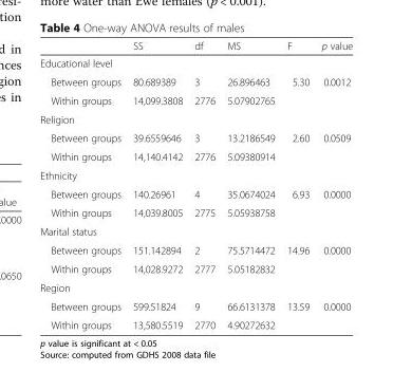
<table><thead><tr><td></td><td>SS</td><td>df</td><td>MS</td><td>F</td><td>p value</td></tr></thead><tbody><tr><td colspan="6">Educational level</td></tr><tr><td>Between groups</td><td>80.689389</td><td>3</td><td>26.896463</td><td rowspan="2">5.30</td><td rowspan="2">0.0012</td></tr><tr><td>Within groups</td><td>14,099.3808</td><td>2776</td><td>5.07902765</td></tr><tr><td colspan="6">Religion</td></tr><tr><td>Between groups</td><td>39.6559646</td><td>3</td><td>13.2186549</td><td rowspan="2">2.60</td><td rowspan="2">0.0509</td></tr><tr><td>Within groups</td><td>14,140.4142</td><td>2776</td><td>5.09380914</td></tr><tr><td colspan="6">Ethnicity</td></tr><tr><td>Between groups</td><td>140.26961</td><td>4</td><td>35.0674024</td><td rowspan="2">6.93</td><td rowspan="2">0.0000</td></tr><tr><td>Within groups</td><td>14,039.8005</td><td>2775</td><td>5.05938758</td></tr><tr><td colspan="6">Marital status</td></tr><tr><td>Between groups</td><td>151.142894</td><td>2</td><td>75.5714472</td><td rowspan="2">14.96</td><td rowspan="2">0.0000</td></tr><tr><td>Within groups</td><td>14,028.9272</td><td>2777</td><td>5.05182832</td></tr><tr><td colspan="6">Region</td></tr><tr><td>Between groups</td><td>599.51824</td><td>9</td><td>66.6131378</td><td rowspan="2">13.59</td><td rowspan="2">0.0000</td></tr><tr><td>Within groups</td><td>13,580.5519</td><td>2770</td><td>4.90272632</td></tr></tbody></table>